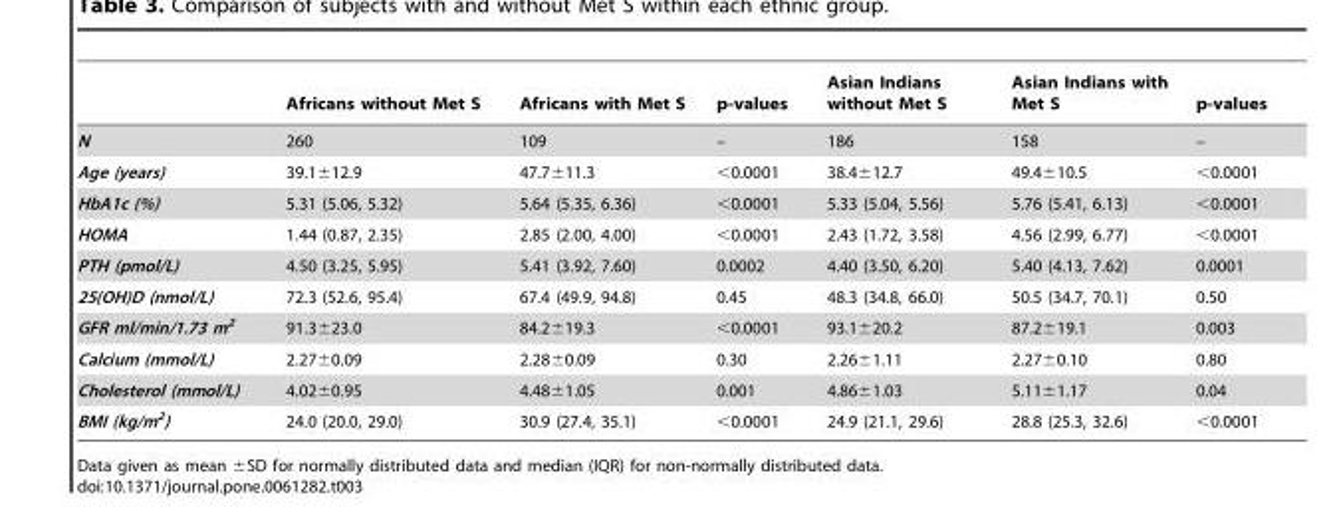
<table><thead><tr><td></td><td>Africans without Met S</td><td>Africans with Met S</td><td>p-values</td><td>Asian Indians without Met S</td><td>Asian Indians with Met S</td><td>p-values</td></tr></thead><tbody><tr><td>N</td><td>260</td><td>109</td><td>–</td><td>186</td><td>158</td><td>–</td></tr><tr><td>Age (years)</td><td>39.1±12.9</td><td>47.7±11.3</td><td>&lt;0.0001</td><td>38.4±12.7</td><td>49.4±10.5</td><td>&lt;0.0001</td></tr><tr><td>HbA1c (%)</td><td>5.31 (5.06, 5.32)</td><td>5.64 (5.35, 6.36)</td><td>&lt;0.0001</td><td>5.33 (5.04, 5.56)</td><td>5.76 (5.41, 6.13)</td><td>&lt;0.0001</td></tr><tr><td>HOMA</td><td>1.44 (0.87, 2.35)</td><td>2.85 (2.00, 4.00)</td><td>&lt;0.0001</td><td>2.43 (1.72, 3.58)</td><td>4.56 (2.99, 6.77)</td><td>&lt;0.0001</td></tr><tr><td>PTH (pmol/L)</td><td>4.50 (3.25, 5.95)</td><td>5.41 (3.92, 7.60)</td><td>0.0002</td><td>4.40 (3.50, 6.20)</td><td>5.40 (4.13, 7.62)</td><td>0.0001</td></tr><tr><td>25(OH)D (nmol/L)</td><td>72.3 (52.6, 95.4)</td><td>67.4 (49.9, 94.8)</td><td>0.45</td><td>48.3 (34.8, 66.0)</td><td>50.5 (34.7, 70.1)</td><td>0.50</td></tr><tr><td>GFR ml/min/1.73 m<sup>2</sup></td><td>91.3±23.0</td><td>84.2±19.3</td><td>&lt;0.0001</td><td>93.1±20.2</td><td>87.2±19.1</td><td>0.003</td></tr><tr><td>Calcium (mmol/L)</td><td>2.27±0.09</td><td>2.28±0.09</td><td>0.30</td><td>2.26±1.11</td><td>2.27±0.10</td><td>0.80</td></tr><tr><td>Cholesterol (mmol/L)</td><td>4.02±0.95</td><td>4.48±1.05</td><td>0.001</td><td>4.86±1.03</td><td>5.11±1.17</td><td>0.04</td></tr><tr><td>BMI (kg/m<sup>2</sup>)</td><td>24.0 (20.0, 29.0)</td><td>30.9 (27.4, 35.1)</td><td>&lt;0.0001</td><td>24.9 (21.1, 29.6)</td><td>28.8 (25.3, 32.6)</td><td>&lt;0.0001</td></tr></tbody></table>